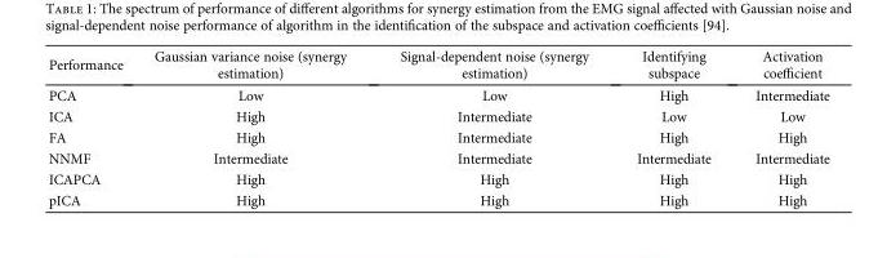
<table><thead><tr><td>Performance</td><td>Gaussian variance noise (synergy estimation)</td><td>Signal-dependent noise (synergy estimation)</td><td>Identifying subspace</td><td>Activation coefficient</td></tr></thead><tbody><tr><td>PCA</td><td>Low</td><td>Low</td><td>High</td><td>Intermediate</td></tr><tr><td>ICA</td><td>High</td><td>Intermediate</td><td>Low</td><td>Low</td></tr><tr><td>FA</td><td>High</td><td>Intermediate</td><td>High</td><td>High</td></tr><tr><td>NNMF</td><td>Intermediate</td><td>Intermediate</td><td>Intermediate</td><td>Intermediate</td></tr><tr><td>ICAPCA</td><td>High</td><td>High</td><td>High</td><td>High</td></tr><tr><td>pICA</td><td>High</td><td>High</td><td>High</td><td>High</td></tr></tbody></table>